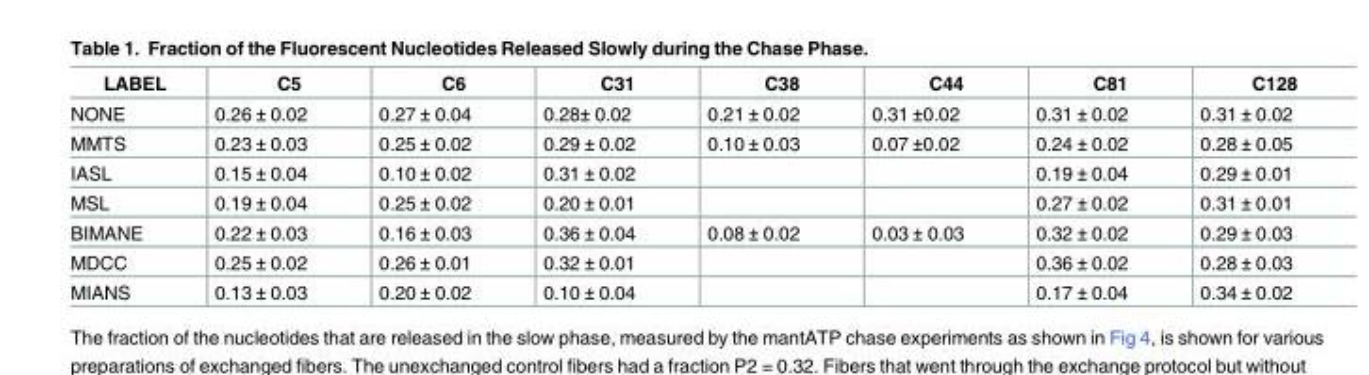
<table><thead><tr><td>LABEL</td><td>C5</td><td>C6</td><td>C31</td><td>C38</td><td>C44</td><td>C81</td><td>C128</td></tr></thead><tbody><tr><td>NONE</td><td>0.26 ± 0.02</td><td>0.27 ± 0.04</td><td>0.28± 0.02</td><td>0.21 ± 0.02</td><td>0.31 ±0.02</td><td>0.31 ± 0.02</td><td>0.31 ± 0.02</td></tr><tr><td>MMTS</td><td>0.23 ± 0.03</td><td>0.25 ± 0.02</td><td>0.29 ± 0.02</td><td>0.10 ± 0.03</td><td>0.07 ±0.02</td><td>0.24 ± 0.02</td><td>0.28 ± 0.05</td></tr><tr><td>IASL</td><td>0.15 ± 0.04</td><td>0.10 ± 0.02</td><td>0.31 ± 0.02</td><td></td><td></td><td>0.19 ± 0.04</td><td>0.29 ± 0.01</td></tr><tr><td>MSL</td><td>0.19 ± 0.04</td><td>0.25 ± 0.02</td><td>0.20 ± 0.01</td><td></td><td></td><td>0.27 ± 0.02</td><td>0.31 ± 0.01</td></tr><tr><td>BIMANE</td><td>0.22 ± 0.03</td><td>0.16 ± 0.03</td><td>0.36 ± 0.04</td><td>0.08 ± 0.02</td><td>0.03 ± 0.03</td><td>0.32 ± 0.02</td><td>0.29 ± 0.03</td></tr><tr><td>MDCC</td><td>0.25 ± 0.02</td><td>0.26 ± 0.01</td><td>0.32 ± 0.01</td><td></td><td></td><td>0.36 ± 0.02</td><td>0.28 ± 0.03</td></tr><tr><td>MIANS</td><td>0.13 ± 0.03</td><td>0.20 ± 0.02</td><td>0.10 ± 0.04</td><td></td><td></td><td>0.17 ± 0.04</td><td>0.34 ± 0.02</td></tr></tbody></table>